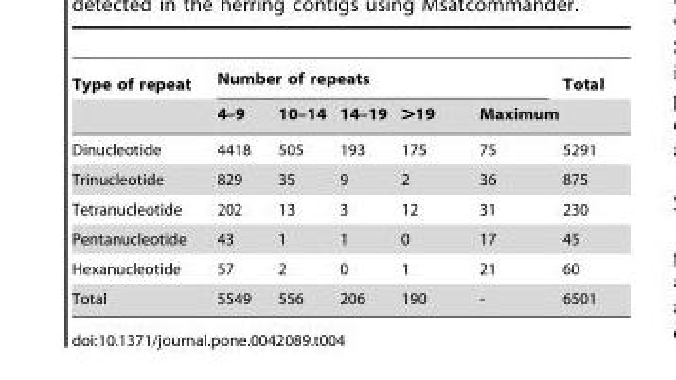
<table><thead><tr><td rowspan="2">Type of repeat</td><td colspan="5">Number of repeats</td><td rowspan="2">Total</td></tr><tr><td>4–9</td><td>10–14</td><td>14–19</td><td>&gt;19</td><td>Maximum</td></tr></thead><tbody><tr><td>Dinucleotide</td><td>4418</td><td>505</td><td>193</td><td>175</td><td>75</td><td>5291</td></tr><tr><td>Trinucleotide</td><td>829</td><td>35</td><td>9</td><td>2</td><td>36</td><td>875</td></tr><tr><td>Tetranucleotide</td><td>202</td><td>13</td><td>3</td><td>12</td><td>31</td><td>230</td></tr><tr><td>Pentanucleotide</td><td>43</td><td>1</td><td>1</td><td>0</td><td>17</td><td>45</td></tr><tr><td>Hexanucleotide</td><td>57</td><td>2</td><td>0</td><td>1</td><td>21</td><td>60</td></tr><tr><td>Total</td><td>5549</td><td>556</td><td>206</td><td>190</td><td>-</td><td>6501</td></tr></tbody></table>